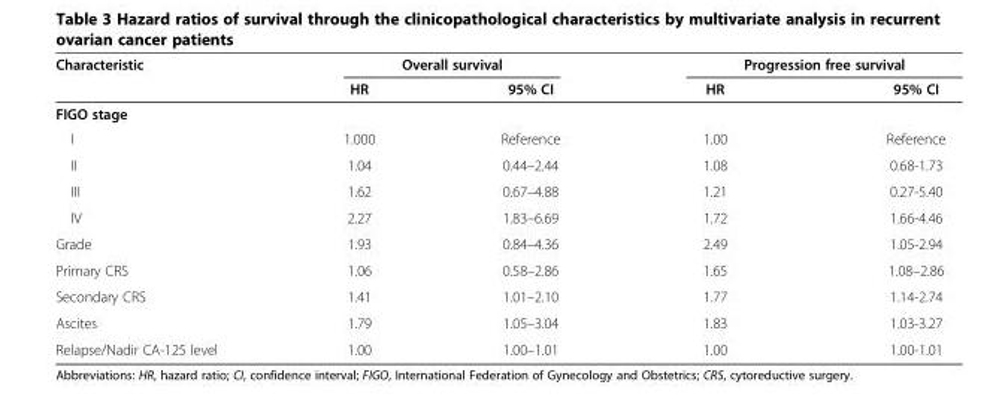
<table><thead><tr><td rowspan="2">Characteristic</td><td colspan="2">Overall survival</td><td colspan="2">Progression free survival</td></tr><tr><td>HR</td><td>95% CI</td><td>HR</td><td>95% CI</td></tr><tr><td colspan="5">FIGO stage</td></tr></thead><tbody><tr><td>I</td><td>1.000</td><td>Reference</td><td>1.00</td><td>Reference</td></tr><tr><td>II</td><td>1.04</td><td>0.44–2.44</td><td>1.08</td><td>0.68-1.73</td></tr><tr><td>III</td><td>1.62</td><td>0.67–4.88</td><td>1.21</td><td>0.27-5.40</td></tr><tr><td>IV</td><td>2.27</td><td>1.83–6.69</td><td>1.72</td><td>1.66-4.46</td></tr><tr><td>Grade</td><td>1.93</td><td>0.84–4.36</td><td>2.49</td><td>1.05-2.94</td></tr><tr><td>Primary CRS</td><td>1.06</td><td>0.58–2.86</td><td>1.65</td><td>1.08–2.86</td></tr><tr><td>Secondary CRS</td><td>1.41</td><td>1.01–2.10</td><td>1.77</td><td>1.14-2.74</td></tr><tr><td>Ascites</td><td>1.79</td><td>1.05–3.04</td><td>1.83</td><td>1.03-3.27</td></tr><tr><td>Relapse/Nadir CA-125 level</td><td>1.00</td><td>1.00–1.01</td><td>1.00</td><td>1.00-1.01</td></tr></tbody></table>